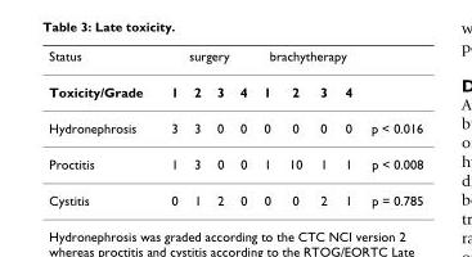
<table><thead><tr><td rowspan="2">Status Toxicity/Grade</td><td colspan="4">surgery</td><td colspan="4">brachytherapy</td><td rowspan="2"></td></tr><tr><td>1</td><td>2</td><td>3</td><td>4</td><td>1</td><td>2</td><td>3</td><td>4</td></tr></thead><tbody><tr><td>Hydronephrosis</td><td>3</td><td>3</td><td>0</td><td>0</td><td>0</td><td>0</td><td>0</td><td>0</td><td>p &lt; 0.016</td></tr><tr><td>Proctitis</td><td>1</td><td>3</td><td>0</td><td>0</td><td>1</td><td>10</td><td>1</td><td>1</td><td>p &lt; 0.008</td></tr><tr><td>Cystitis</td><td>0</td><td>1</td><td>2</td><td>0</td><td>0</td><td>0</td><td>2</td><td>1</td><td>p = 0.785</td></tr></tbody></table>